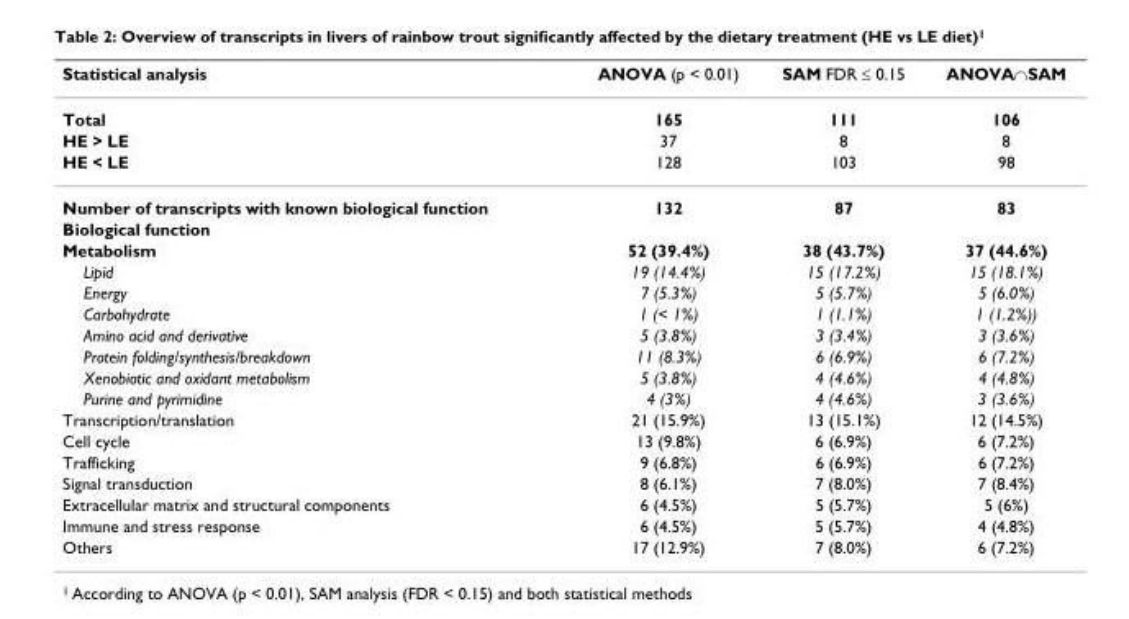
<table><thead><tr><td>Statistical analysis</td><td>ANOVA (p &lt; 0.01)</td><td>SAM FDR ≤ 0.15</td><td>ANOVA∩SAM</td></tr></thead><tbody><tr><td>Total</td><td>165</td><td>111</td><td>106</td></tr><tr><td>HE &gt; LE</td><td>37</td><td>8</td><td>8</td></tr><tr><td>HE &lt; LE</td><td>128</td><td>103</td><td>98</td></tr><tr><td>Number of transcripts with known biological function</td><td>132</td><td>87</td><td>83</td></tr><tr><td colspan="4">Biological function</td></tr><tr><td>Metabolism</td><td>52 (39.4%)</td><td>38 (43.7%)</td><td>37 (44.6%)</td></tr><tr><td>Lipid</td><td>19 (14.4%)</td><td>15 (17.2%)</td><td>15 (18.1%)</td></tr><tr><td>Energy</td><td>7 (5.3%)</td><td>5 (5.7%)</td><td>5 (6.0%)</td></tr><tr><td>Carbohydrate</td><td>1 (&lt; 1%)</td><td>1 (1.1%)</td><td>1 (1.2%))</td></tr><tr><td>Amino acid and derivative</td><td>5 (3.8%)</td><td>3 (3.4%)</td><td>3 (3.6%)</td></tr><tr><td>Protein folding/synthesis/breakdown</td><td>11 (8.3%)</td><td>6 (6.9%)</td><td>6 (7.2%)</td></tr><tr><td>Xenobiotic and oxidant metabolism</td><td>5 (3.8%)</td><td>4 (4.6%)</td><td>4 (4.8%)</td></tr><tr><td>Purine and pyrimidine</td><td>4 (3%)</td><td>4 (4.6%)</td><td>3 (3.6%)</td></tr><tr><td>Transcription/translation</td><td>21 (15.9%)</td><td>13 (15.1%)</td><td>12 (14.5%)</td></tr><tr><td>Cell cycle</td><td>13 (9.8%)</td><td>6 (6.9%)</td><td>6 (7.2%)</td></tr><tr><td>Trafficking</td><td>9 (6.8%)</td><td>6 (6.9%)</td><td>6 (7.2%)</td></tr><tr><td>Signal transduction</td><td>8 (6.1%)</td><td>7 (8.0%)</td><td>7 (8.4%)</td></tr><tr><td>Extracellular matrix and structural components</td><td>6 (4.5%)</td><td>5 (5.7%)</td><td>5 (6%)</td></tr><tr><td>Immune and stress response</td><td>6 (4.5%)</td><td>5 (5.7%)</td><td>4 (4.8%)</td></tr><tr><td>Others</td><td>17 (12.9%)</td><td>7 (8.0%)</td><td>6 (7.2%)</td></tr></tbody></table>